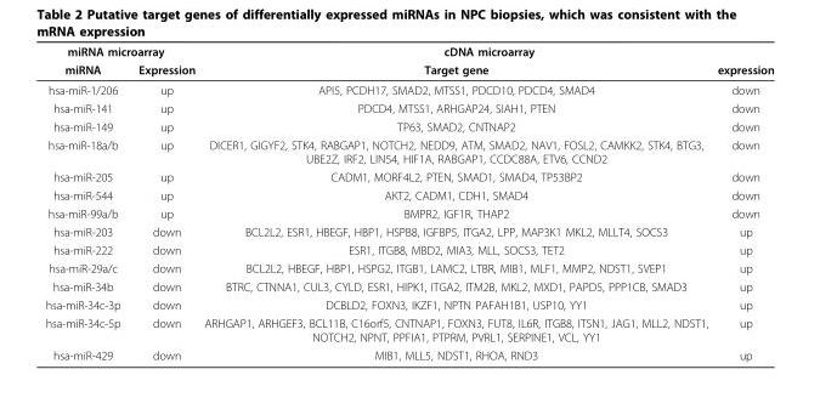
<table><thead><tr><td colspan="2">miRNA microarray</td><td colspan="2">cDNA microarray</td></tr><tr><td>miRNA</td><td>Expression</td><td>Target gene</td><td>expression</td></tr></thead><tbody><tr><td>hsa-miR-1/206</td><td>up</td><td>API5, PCDH17, SMAD2, MTSS1, PDCD10, PDCD4, SMAD4</td><td>down</td></tr><tr><td>hsa-miR-141</td><td>up</td><td>PDCD4, MTSS1, ARHGAP24, SIAH1, PTEN</td><td>down</td></tr><tr><td>hsa-miR-149</td><td>up</td><td>TP63, SMAD2, CNTNAP2</td><td>down</td></tr><tr><td>hsa-miR-18a/b</td><td>up</td><td>DICER1, GIGYF2, STK4, RABGAP1, NOTCH2, NEDD9, ATM, SMAD2, NAV1, FOSL2, CAMKK2, STK4, BTG3, UBE2Z, IRF2, LIN54, HIF1A, RABGAP1, CCDC88A, ETV6, CCND2</td><td>down</td></tr><tr><td>hsa-miR-205</td><td>up</td><td>CADM1, MORF4L2, PTEN, SMAD1, SMAD4, TP53BP2</td><td>down</td></tr><tr><td>hsa-miR-544</td><td>up</td><td>AKT2, CADM1, CDH1, SMAD4</td><td>down</td></tr><tr><td>hsa-miR-99a/b</td><td>up</td><td>BMPR2, IGF1R, THAP2</td><td>down</td></tr><tr><td>hsa-miR-203</td><td>down</td><td>BCL2L2, ESR1, HBEGF, HBP1, HSPB8, IGFBP5, ITGA2, LPP, MAP3K1 MKL2, MLLT4, SOCS3</td><td>up</td></tr><tr><td>hsa-miR-222</td><td>down</td><td>ESR1, ITGB8, MBD2, MIA3, MLL, SOCS3, TET2</td><td>up</td></tr><tr><td>hsa-miR-29a/c</td><td>down</td><td>BCL2L2, HBEGF, HBP1, HSPG2, ITGB1, LAMC2, LTBR, MIB1, MLF1, MMP2, NDST1, SVEP1</td><td>up</td></tr><tr><td>hsa-miR-34b</td><td>down</td><td>BTRC, CTNNA1, CUL3, CYLD, ESR1, HIPK1, ITGA2, ITM2B, MKL2, MXD1, PAPD5, PPP1CB, SMAD3</td><td>up</td></tr><tr><td>hsa-miR-34c-3p</td><td>down</td><td>DCBLD2, FOXN3, IKZF1, NPTN PAFAH1B1, USP10, YY1</td><td>up</td></tr><tr><td>hsa-miR-34c-5p</td><td>down</td><td>ARHGAP1, ARHGEF3, BCL11B, C16orf5, CNTNAP1, FOXN3, FUT8, IL6R, ITGB8, ITSN1, JAG1, MLL2, NDST1, NOTCH2, NPNT, PPFIA1, PTPRM, PVRL1, SERPINE1, VCL, YY1</td><td>up</td></tr><tr><td>hsa-miR-429</td><td>down</td><td>MIB1, MLL5, NDST1, RHOA, RND3</td><td>up</td></tr></tbody></table>